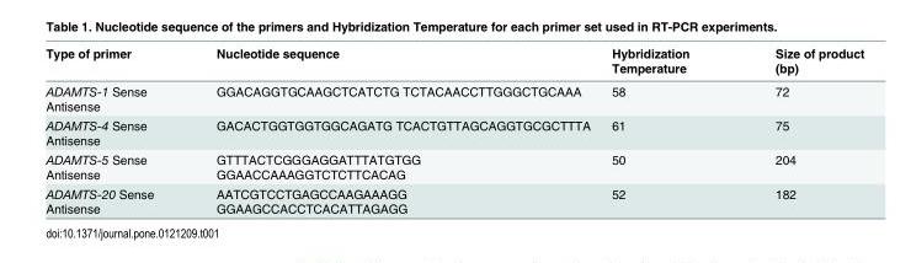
<table><thead><tr><td>Type of primer</td><td>Nucleotide sequence</td><td>Hybridization Temperature</td><td>Size of product (bp)</td></tr></thead><tbody><tr><td>ADAMTS-1 Sense Antisense</td><td>GGACAGGTGCAAGCTCATCTG TCTACAACCTTGGGCTGCAAA</td><td>58</td><td>72</td></tr><tr><td>ADAMTS-4 Sense Antisense</td><td>GACACTGGTGGTGGCAGATG TCACTGTTAGCAGGTGCGCTTTA</td><td>61</td><td>75</td></tr><tr><td>ADAMTS-5 Sense Antisense</td><td>GTTTACTCGGGAGGATTTATGTGG GGAACCAAAGGTCTCTTCACAG</td><td>50</td><td>204</td></tr><tr><td>ADAMTS-20 Sense Antisense</td><td>AATCGTCCTGAGCCAAGAAAGG GGAAGCCACCTCACATTAGAGG</td><td>52</td><td>182</td></tr></tbody></table>